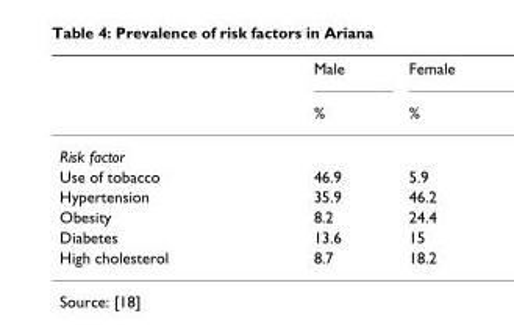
<table><thead><tr><td rowspan="2"></td><td rowspan="2">Male %</td><td rowspan="2">Female %</td></tr><tr></tr></thead><tbody><tr><td colspan="3">Risk factor</td></tr><tr><td>Use of tobacco</td><td>46.9</td><td>5.9</td></tr><tr><td>Hypertension</td><td>35.9</td><td>46.2</td></tr><tr><td>Obesity</td><td>8.2</td><td>24.4</td></tr><tr><td>Diabetes</td><td>13.6</td><td>15</td></tr><tr><td>High cholesterol</td><td>8.7</td><td>18.2</td></tr></tbody></table>